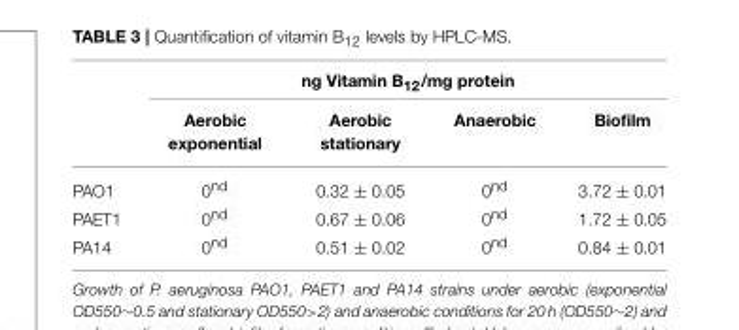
<table><thead><tr><td rowspan="2"></td><td colspan="4">ng Vitamin B<sub>12</sub>/mg protein</td></tr><tr><td>Aerobic exponential</td><td>Aerobic stationary</td><td>Anaerobic</td><td>Biofilm</td></tr></thead><tbody><tr><td>PAO1</td><td>0<sup>nd</sup></td><td>0.32 ± 0.05</td><td>0<sup>nd</sup></td><td>3.72 ± 0.01</td></tr><tr><td>PAET1</td><td>0<sup>nd</sup></td><td>0.67 ± 0.06</td><td>0<sup>nd</sup></td><td>1.72 ± 0.05</td></tr><tr><td>PA14</td><td>0<sup>nd</sup></td><td>0.51 ± 0.02</td><td>0<sup>nd</sup></td><td>0.84 ± 0.01</td></tr></tbody></table>